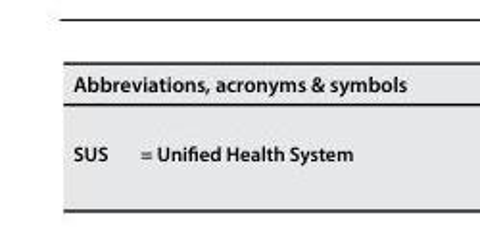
<table><thead><tr><td colspan="2">Abbreviations, acronyms &amp; symbols</td></tr><tr><td>SUS</td><td>= Unified Health System</td></tr></thead><tbody></tbody></table>